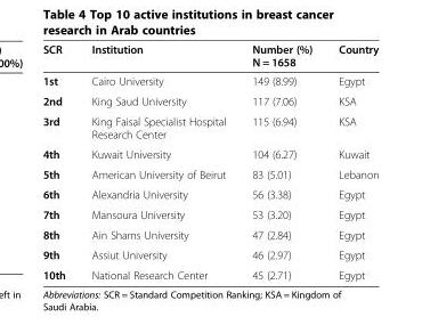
<table><thead><tr><td>SCR</td><td>Institution</td><td>Number (%) N = 1658</td><td>Country</td></tr></thead><tbody><tr><td>1st</td><td>Cairo University</td><td>149 (8.99)</td><td>Egypt</td></tr><tr><td>2nd</td><td>King Saud University</td><td>117 (7.06)</td><td>KSA</td></tr><tr><td>3rd</td><td>King Faisal Specialist Hospital Research Center</td><td>115 (6.94)</td><td>KSA</td></tr><tr><td>4th</td><td>Kuwait University</td><td>104 (6.27)</td><td>Kuwait</td></tr><tr><td>5th</td><td>American University of Beirut</td><td>83 (5.01)</td><td>Lebanon</td></tr><tr><td>6th</td><td>Alexandria University</td><td>56 (3.38)</td><td>Egypt</td></tr><tr><td>7th</td><td>Mansoura University</td><td>53 (3.20)</td><td>Egypt</td></tr><tr><td>8th</td><td>Ain Shams University</td><td>47 (2.84)</td><td>Egypt</td></tr><tr><td>9th</td><td>Assiut University</td><td>46 (2.97)</td><td>Egypt</td></tr><tr><td>10th</td><td>National Research Center</td><td>45 (2.71)</td><td>Egypt</td></tr></tbody></table>